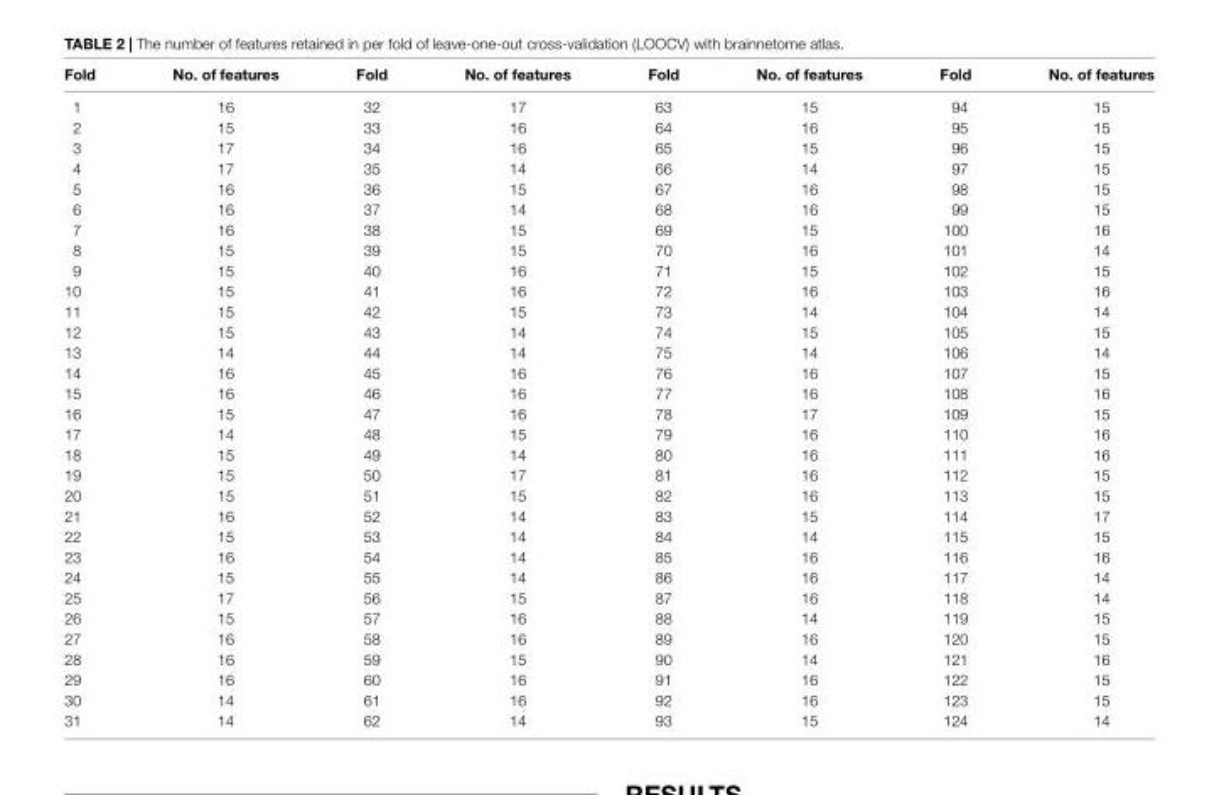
<table><thead><tr><td>Fold</td><td>No. of features</td><td>Fold</td><td>No. of features</td><td>Fold</td><td>No. of features</td><td>Fold</td><td>No. of features</td></tr></thead><tbody><tr><td>1</td><td>16</td><td>32</td><td>17</td><td>63</td><td>15</td><td>94</td><td>15</td></tr><tr><td>2</td><td>15</td><td>33</td><td>16</td><td>64</td><td>16</td><td>95</td><td>15</td></tr><tr><td>3</td><td>17</td><td>34</td><td>16</td><td>65</td><td>15</td><td>96</td><td>15</td></tr><tr><td>4</td><td>17</td><td>35</td><td>14</td><td>66</td><td>14</td><td>97</td><td>15</td></tr><tr><td>5</td><td>16</td><td>36</td><td>15</td><td>67</td><td>16</td><td>98</td><td>15</td></tr><tr><td>6</td><td>16</td><td>37</td><td>14</td><td>68</td><td>16</td><td>99</td><td>15</td></tr><tr><td>7</td><td>16</td><td>38</td><td>15</td><td>69</td><td>15</td><td>100</td><td>16</td></tr><tr><td>8</td><td>15</td><td>39</td><td>15</td><td>70</td><td>16</td><td>101</td><td>14</td></tr><tr><td>9</td><td>15</td><td>40</td><td>16</td><td>71</td><td>15</td><td>102</td><td>15</td></tr><tr><td>10</td><td>15</td><td>41</td><td>16</td><td>72</td><td>16</td><td>103</td><td>16</td></tr><tr><td>11</td><td>15</td><td>42</td><td>15</td><td>73</td><td>14</td><td>104</td><td>14</td></tr><tr><td>12</td><td>15</td><td>43</td><td>14</td><td>74</td><td>15</td><td>105</td><td>15</td></tr><tr><td>13</td><td>14</td><td>44</td><td>14</td><td>75</td><td>14</td><td>106</td><td>14</td></tr><tr><td>14</td><td>16</td><td>45</td><td>16</td><td>76</td><td>16</td><td>107</td><td>15</td></tr><tr><td>15</td><td>16</td><td>46</td><td>16</td><td>77</td><td>16</td><td>108</td><td>16</td></tr><tr><td>16</td><td>15</td><td>47</td><td>16</td><td>78</td><td>17</td><td>109</td><td>15</td></tr><tr><td>17</td><td>14</td><td>48</td><td>15</td><td>79</td><td>16</td><td>110</td><td>16</td></tr><tr><td>18</td><td>15</td><td>49</td><td>14</td><td>80</td><td>16</td><td>111</td><td>16</td></tr><tr><td>19</td><td>15</td><td>50</td><td>17</td><td>81</td><td>16</td><td>112</td><td>15</td></tr><tr><td>20</td><td>15</td><td>51</td><td>15</td><td>82</td><td>16</td><td>113</td><td>15</td></tr><tr><td>21</td><td>16</td><td>52</td><td>14</td><td>83</td><td>15</td><td>114</td><td>17</td></tr><tr><td>22</td><td>15</td><td>53</td><td>14</td><td>84</td><td>14</td><td>115</td><td>15</td></tr><tr><td>23</td><td>16</td><td>54</td><td>14</td><td>85</td><td>16</td><td>116</td><td>16</td></tr><tr><td>24</td><td>15</td><td>55</td><td>14</td><td>86</td><td>16</td><td>117</td><td>14</td></tr><tr><td>25</td><td>17</td><td>56</td><td>15</td><td>87</td><td>16</td><td>118</td><td>14</td></tr><tr><td>26</td><td>15</td><td>57</td><td>16</td><td>88</td><td>14</td><td>119</td><td>15</td></tr><tr><td>27</td><td>16</td><td>58</td><td>16</td><td>89</td><td>16</td><td>120</td><td>15</td></tr><tr><td>28</td><td>16</td><td>59</td><td>15</td><td>90</td><td>14</td><td>121</td><td>16</td></tr><tr><td>29</td><td>16</td><td>60</td><td>16</td><td>91</td><td>16</td><td>122</td><td>15</td></tr><tr><td>30</td><td>14</td><td>61</td><td>16</td><td>92</td><td>16</td><td>123</td><td>15</td></tr><tr><td>31</td><td>14</td><td>62</td><td>14</td><td>93</td><td>15</td><td>124</td><td>14</td></tr></tbody></table>